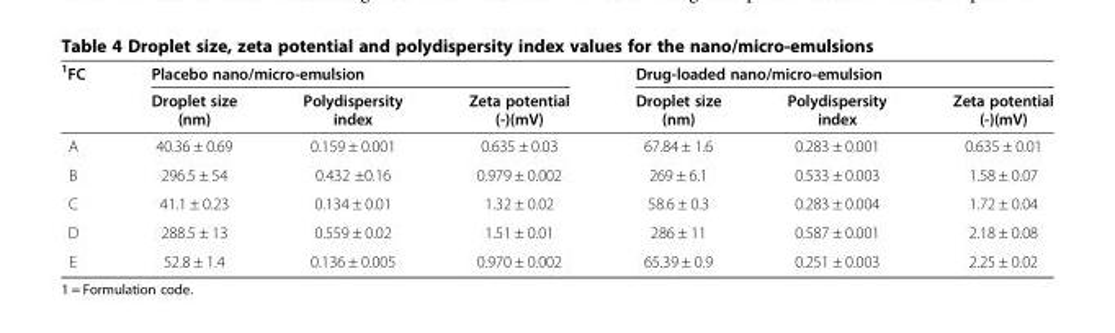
<table><thead><tr><td rowspan="2"><sup>1</sup>FC</td><td colspan="3">Placebo nano/micro-emulsion</td><td colspan="3">Drug-loaded nano/micro-emulsion</td></tr><tr><td>Droplet size (nm)</td><td>Polydispersity index</td><td>Zeta potential (-)(mV)</td><td>Droplet size (nm)</td><td>Polydispersity index</td><td>Zeta potential (-)(mV)</td></tr></thead><tbody><tr><td>A</td><td>40.36 ± 0.69</td><td>0.159 ± 0.001</td><td>0.635 ± 0.03</td><td>67.84 ± 1.6</td><td>0.283 ± 0.001</td><td>0.635 ± 0.01</td></tr><tr><td>B</td><td>296.5 ± 54</td><td>0.432 ±0.16</td><td>0.979 ± 0.002</td><td>269 ± 6.1</td><td>0.533 ± 0.003</td><td>1.58 ± 0.07</td></tr><tr><td>C</td><td>41.1 ± 0.23</td><td>0.134 ± 0.01</td><td>1.32 ± 0.02</td><td>58.6 ± 0.3</td><td>0.283 ± 0.004</td><td>1.72 ± 0.04</td></tr><tr><td>D</td><td>288.5 ± 13</td><td>0.559 ± 0.02</td><td>1.51 ± 0.01</td><td>286 ± 11</td><td>0.587 ± 0.001</td><td>2.18 ± 0.08</td></tr><tr><td>E</td><td>52.8 ± 1.4</td><td>0.136 ± 0.005</td><td>0.970 ± 0.002</td><td>65.39 ± 0.9</td><td>0.251 ± 0.003</td><td>2.25 ± 0.02</td></tr></tbody></table>